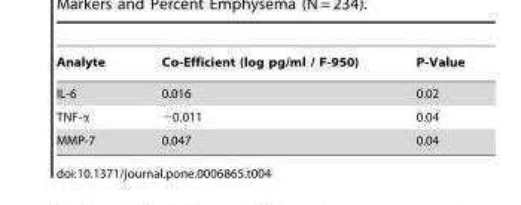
<table><thead><tr><td>Analyte</td><td>Co-Efficient (log pg/ml / F-950)</td><td>P-Value</td></tr></thead><tbody><tr><td>IL-6</td><td>0.016</td><td>0.02</td></tr><tr><td>TNF-α</td><td>−0.011</td><td>0.04</td></tr><tr><td>MMP-7</td><td>0.047</td><td>0.04</td></tr></tbody></table>